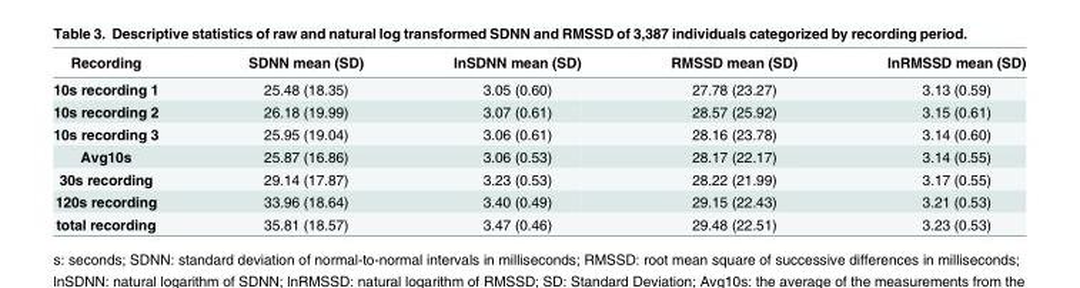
<table><thead><tr><td>Recording</td><td>SDNN mean (SD)</td><td>lnSDNN mean (SD)</td><td>RMSSD mean (SD)</td><td>lnRMSSD mean (SD)</td></tr></thead><tbody><tr><td>10s recording 1</td><td>25.48 (18.35)</td><td>3.05 (0.60)</td><td>27.78 (23.27)</td><td>3.13 (0.59)</td></tr><tr><td>10s recording 2</td><td>26.18 (19.99)</td><td>3.07 (0.61)</td><td>28.57 (25.92)</td><td>3.15 (0.61)</td></tr><tr><td>10s recording 3</td><td>25.95 (19.04)</td><td>3.06 (0.61)</td><td>28.16 (23.78)</td><td>3.14 (0.60)</td></tr><tr><td>Avg10s</td><td>25.87 (16.86)</td><td>3.06 (0.53)</td><td>28.17 (22.17)</td><td>3.14 (0.55)</td></tr><tr><td>30s recording</td><td>29.14 (17.87)</td><td>3.23 (0.53)</td><td>28.22 (21.99)</td><td>3.17 (0.55)</td></tr><tr><td>120s recording</td><td>33.96 (18.64)</td><td>3.40 (0.49)</td><td>29.15 (22.43)</td><td>3.21 (0.53)</td></tr><tr><td>total recording</td><td>35.81 (18.57)</td><td>3.47 (0.46)</td><td>29.48 (22.51)</td><td>3.23 (0.53)</td></tr></tbody></table>